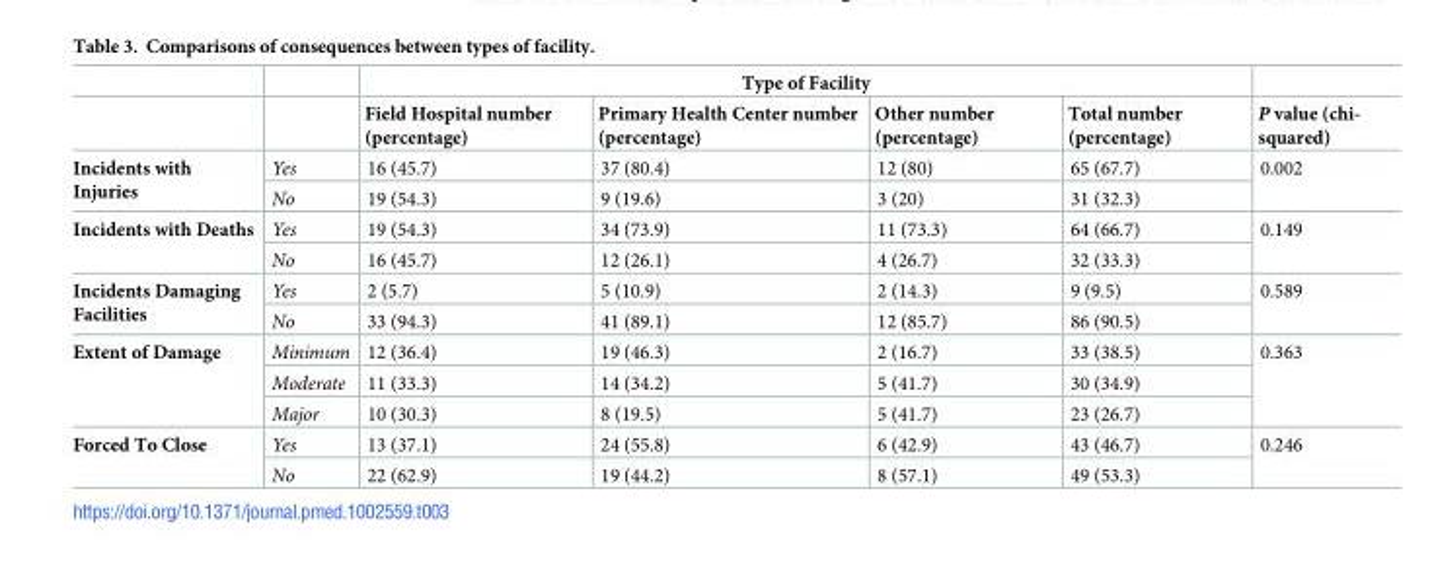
<table><thead><tr><td rowspan="2"></td><td rowspan="2"></td><td colspan="4">Type of Facility</td><td rowspan="2">P value (chi- squared)</td></tr><tr><td>Field Hospital number (percentage)</td><td>Primary Health Center number (percentage)</td><td>Other number (percentage)</td><td>Total number (percentage)</td></tr></thead><tbody><tr><td rowspan="2">Incidents with Injuries</td><td>Yes</td><td>16 (45.7)</td><td>37 (80.4)</td><td>12 (80)</td><td>65 (67.7)</td><td rowspan="2">0.002</td></tr><tr><td>No</td><td>19 (54.3)</td><td>9 (19.6)</td><td>3 (20)</td><td>31 (32.3)</td></tr><tr><td rowspan="2">Incidents with Deaths</td><td>Yes</td><td>19 (54.3)</td><td>34 (73.9)</td><td>11 (73.3)</td><td>64 (66.7)</td><td rowspan="2">0.149</td></tr><tr><td>No</td><td>16 (45.7)</td><td>12 (26.1)</td><td>4 (26.7)</td><td>32 (33.3)</td></tr><tr><td rowspan="2">Incidents Damaging Facilities</td><td>Yes</td><td>2 (5.7)</td><td>5 (10.9)</td><td>2 (14.3)</td><td>9 (9.5)</td><td rowspan="2">0.589</td></tr><tr><td>No</td><td>33 (94.3)</td><td>41 (89.1)</td><td>12 (85.7)</td><td>86 (90.5)</td></tr><tr><td rowspan="3">Extent of Damage</td><td>Minimum</td><td>12 (36.4)</td><td>19 (46.3)</td><td>2 (16.7)</td><td>33 (38.5)</td><td rowspan="3">0.363</td></tr><tr><td>Moderate</td><td>11 (33.3)</td><td>14 (34.2)</td><td>5 (41.7)</td><td>30 (34.9)</td></tr><tr><td>Major</td><td>10 (30.3)</td><td>8 (19.5)</td><td>5 (41.7)</td><td>23 (26.7)</td></tr><tr><td rowspan="2">Forced To Close</td><td>Yes</td><td>13 (37.1)</td><td>24 (55.8)</td><td>6 (42.9)</td><td>43 (46.7)</td><td rowspan="2">0.246</td></tr><tr><td>No</td><td>22 (62.9)</td><td>19 (44.2)</td><td>8 (57.1)</td><td>49 (53.3)</td></tr></tbody></table>